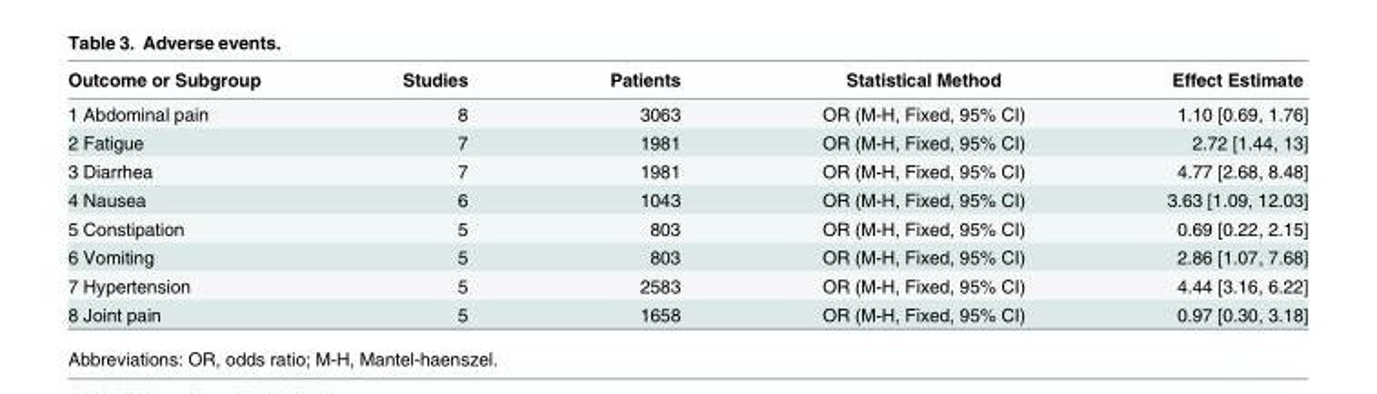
<table><thead><tr><td>Outcome or Subgroup</td><td>Studies</td><td>Patients</td><td>Statistical Method</td><td>Effect Estimate</td></tr></thead><tbody><tr><td>1 Abdominal pain</td><td>8</td><td>3063</td><td>OR (M-H, Fixed, 95% CI)</td><td>1.10 [0.69, 1.76]</td></tr><tr><td>2 Fatigue</td><td>7</td><td>1981</td><td>OR (M-H, Fixed, 95% CI)</td><td>2.72 [1.44, 13]</td></tr><tr><td>3 Diarrhea</td><td>7</td><td>1981</td><td>OR (M-H, Fixed, 95% CI)</td><td>4.77 [2.68, 8.48]</td></tr><tr><td>4 Nausea</td><td>6</td><td>1043</td><td>OR (M-H, Fixed, 95% CI)</td><td>3.63 [1.09, 12.03]</td></tr><tr><td>5 Constipation</td><td>5</td><td>803</td><td>OR (M-H, Fixed, 95% CI)</td><td>0.69 [0.22, 2.15]</td></tr><tr><td>6 Vomiting</td><td>5</td><td>803</td><td>OR (M-H, Fixed, 95% CI)</td><td>2.86 [1.07, 7.68]</td></tr><tr><td>7 Hypertension</td><td>5</td><td>2583</td><td>OR (M-H, Fixed, 95% CI)</td><td>4.44 [3.16, 6.22]</td></tr><tr><td>8 Joint pain</td><td>5</td><td>1658</td><td>OR (M-H, Fixed, 95% CI)</td><td>0.97 [0.30, 3.18]</td></tr></tbody></table>